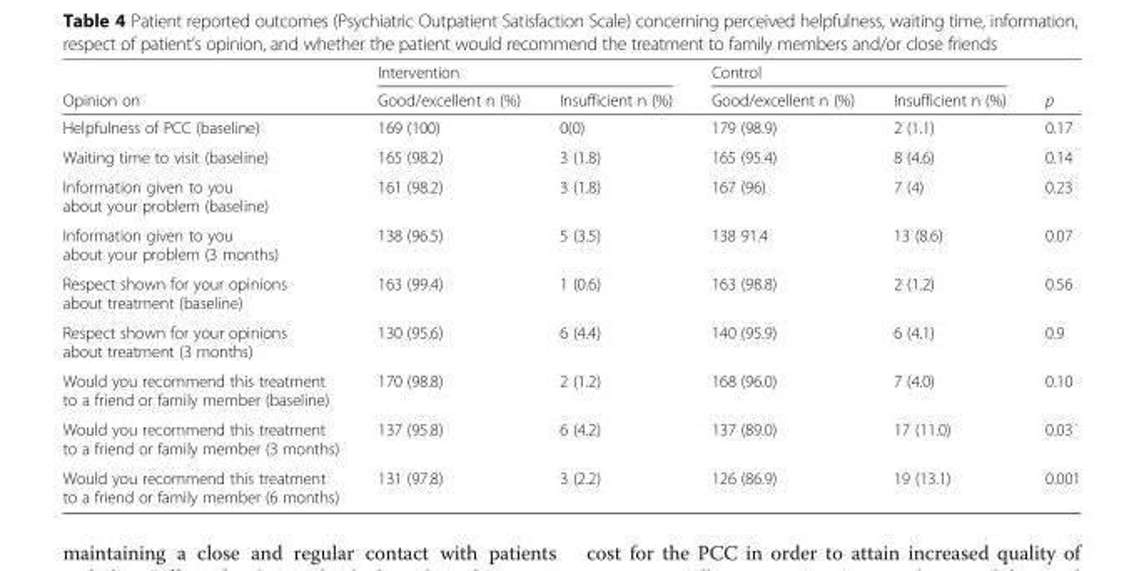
<table><thead><tr><td rowspan="2">Opinion on</td><td colspan="2">Intervention</td><td colspan="2">Control</td><td rowspan="2">p</td></tr><tr><td>Good/excellent n (%)</td><td>Insufficient n (%)</td><td>Good/excellent n (%)</td><td>Insufficient n (%)</td></tr></thead><tbody><tr><td>Helpfulness of PCC (baseline)</td><td>169 (100)</td><td>0(0)</td><td>179 (98.9)</td><td>2 (1.1)</td><td>0.17</td></tr><tr><td>Waiting time to visit (baseline)</td><td>165 (98.2)</td><td>3 (1.8)</td><td>165 (95.4)</td><td>8 (4.6)</td><td>0.14</td></tr><tr><td>Information given to you about your problem (baseline)</td><td>161 (98.2)</td><td>3 (1.8)</td><td>167 (96)</td><td>7 (4)</td><td>0.23</td></tr><tr><td>Information given to you about your problem (3 months)</td><td>138 (96.5)</td><td>5 (3.5)</td><td>138 91.4</td><td>13 (8.6)</td><td>0.07</td></tr><tr><td>Respect shown for your opinions about treatment (baseline)</td><td>163 (99.4)</td><td>1 (0.6)</td><td>163 (98.8)</td><td>2 (1.2)</td><td>0.56</td></tr><tr><td>Respect shown for your opinions about treatment (3 months)</td><td>130 (95.6)</td><td>6 (4.4)</td><td>140 (95.9)</td><td>6 (4.1)</td><td>0.9</td></tr><tr><td>Would you recommend this treatment to a friend or family member (baseline)</td><td>170 (98.8)</td><td>2 (1.2)</td><td>168 (96.0)</td><td>7 (4.0)</td><td>0.10</td></tr><tr><td>Would you recommend this treatment to a friend or family member (3 months)</td><td>137 (95.8)</td><td>6 (4.2)</td><td>137 (89.0)</td><td>17 (11.0)</td><td>0.03</td></tr><tr><td>Would you recommend this treatment to a friend or family member (6 months)</td><td>131 (97.8)</td><td>3 (2.2)</td><td>126 (86.9)</td><td>19 (13.1)</td><td>0.001</td></tr></tbody></table>